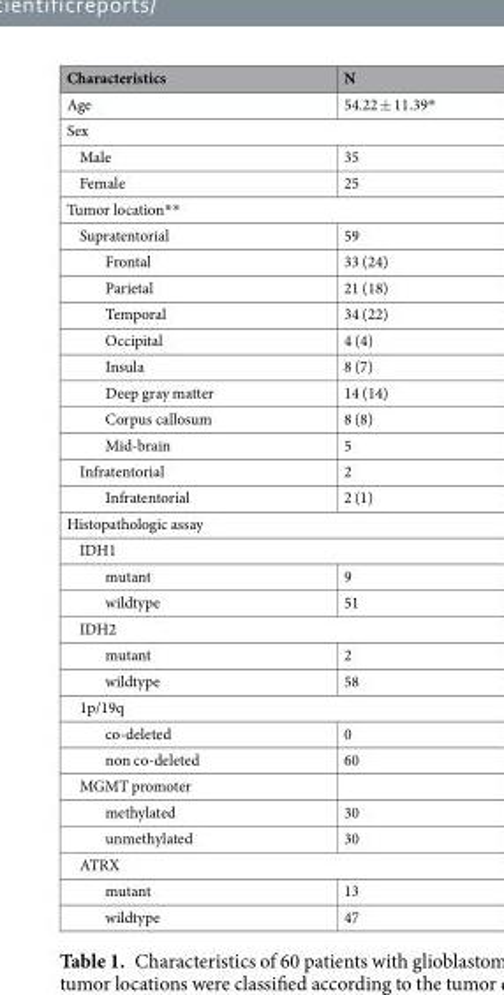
<table><thead><tr><td>Characteristics</td><td>N</td></tr></thead><tbody><tr><td>Age</td><td>54.22 ± 11.39*</td></tr><tr><td colspan="2">Sex</td></tr><tr><td>Male</td><td>35</td></tr><tr><td>Female</td><td>25</td></tr><tr><td colspan="2">Tumor location**</td></tr><tr><td>Supratentorial</td><td>59</td></tr><tr><td>Frontal</td><td>33 (24)</td></tr><tr><td>Parietal</td><td>21 (18)</td></tr><tr><td>Temporal</td><td>34 (22)</td></tr><tr><td>Occipital</td><td>4 (4)</td></tr><tr><td>Insula</td><td>8 (7)</td></tr><tr><td>Deep gray matter</td><td>14 (14)</td></tr><tr><td>Corpus callosum</td><td>8 (8)</td></tr><tr><td>Mid-brain</td><td>5</td></tr><tr><td>Infratentorial</td><td>2</td></tr><tr><td>Infratentorial</td><td>2 (1)</td></tr><tr><td colspan="2">Histopathologic assay</td></tr><tr><td colspan="2">IDH1</td></tr><tr><td>mutant</td><td>9</td></tr><tr><td>wildtype</td><td>51</td></tr><tr><td colspan="2">IDH2</td></tr><tr><td>mutant</td><td>2</td></tr><tr><td>wildtype</td><td>58</td></tr><tr><td colspan="2">1p/19q</td></tr><tr><td>co-deleted</td><td>0</td></tr><tr><td>non co-deleted</td><td>60</td></tr><tr><td colspan="2">MGMT promoter</td></tr><tr><td>methylated</td><td>30</td></tr><tr><td>unmethylated</td><td>30</td></tr><tr><td colspan="2">ATRX</td></tr><tr><td>mutant</td><td>13</td></tr><tr><td>wildtype</td><td>47</td></tr></tbody></table>